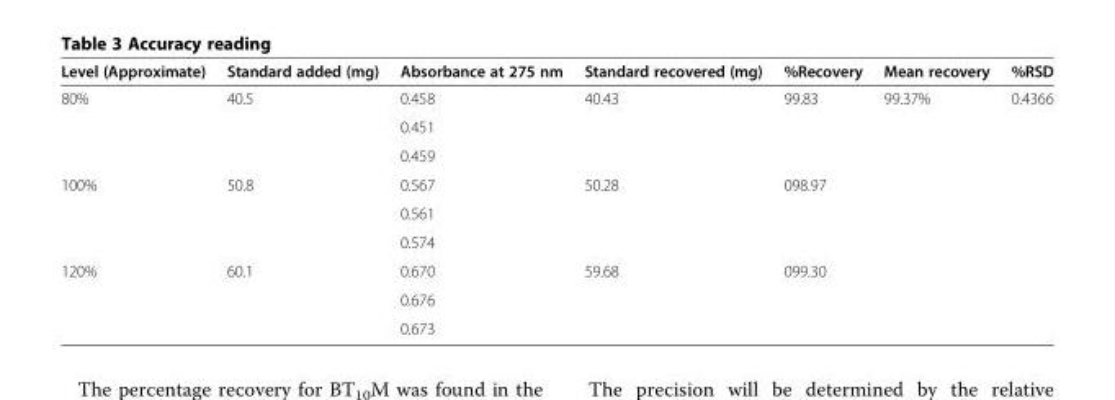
<table><thead><tr><td>Level (Approximate)</td><td>Standard added (mg)</td><td>Absorbance at 275 nm</td><td>Standard recovered (mg)</td><td>%Recovery</td><td>Mean recovery</td><td>%RSD</td></tr></thead><tbody><tr><td rowspan="3">80%</td><td rowspan="3">40.5</td><td>0.458</td><td rowspan="3">40.43</td><td rowspan="3">99.83</td><td rowspan="9">99.37%</td><td rowspan="9">0.4366</td></tr><tr><td>0.451</td></tr><tr><td>0.459</td></tr><tr><td rowspan="3">100%</td><td rowspan="3">50.8</td><td>0.567</td><td rowspan="3">50.28</td><td rowspan="3">098.97</td></tr><tr><td>0.561</td></tr><tr><td>0.574</td></tr><tr><td rowspan="3">120%</td><td rowspan="3">60.1</td><td>0.670</td><td rowspan="3">59.68</td><td rowspan="3">099.30</td></tr><tr><td>0.676</td></tr><tr><td>0.673</td></tr></tbody></table>